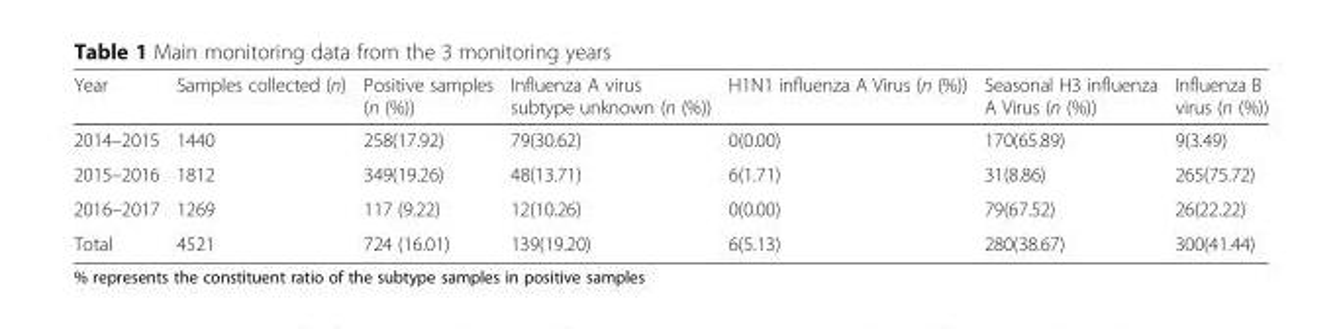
<table><thead><tr><td>Year</td><td>Samples collected (n)</td><td>Positive samples (n (%))</td><td>Influenza A virus subtype unknown (n (%))</td><td>H1N1 influenza A Virus (n (%))</td><td>Seasonal H3 influenza A Virus (n (%))</td><td>Influenza B virus (n (%))</td></tr></thead><tbody><tr><td>2014–2015</td><td>1440</td><td>258(17.92)</td><td>79(30.62)</td><td>0(0.00)</td><td>170(65.89)</td><td>9(3.49)</td></tr><tr><td>2015–2016</td><td>1812</td><td>349(19.26)</td><td>48(13.71)</td><td>6(1.71)</td><td>31(8.86)</td><td>265(75.72)</td></tr><tr><td>2016–2017</td><td>1269</td><td>117 (9.22)</td><td>12(10.26)</td><td>0(0.00)</td><td>79(67.52)</td><td>26(22.22)</td></tr><tr><td>Total</td><td>4521</td><td>724 (16.01)</td><td>139(19.20)</td><td>6(5.13)</td><td>280(38.67)</td><td>300(41.44)</td></tr></tbody></table>